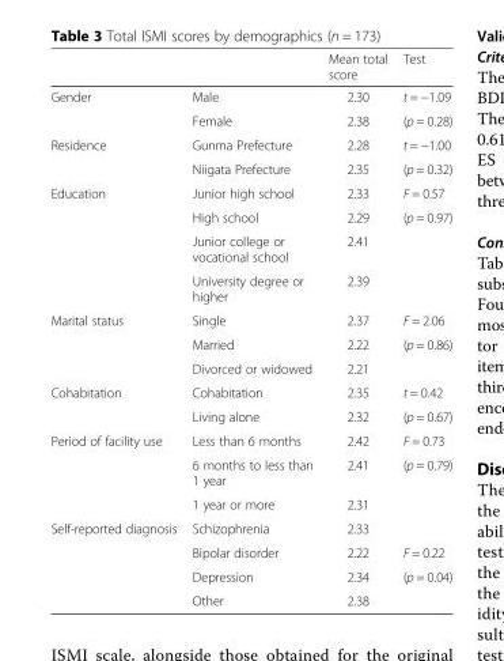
<table><thead><tr><td></td><td></td><td>Mean total score</td><td>Test</td></tr></thead><tbody><tr><td rowspan="2">Gender</td><td>Male</td><td>2.30</td><td>t = −1.09</td></tr><tr><td>Female</td><td>2.38</td><td>(p = 0.28)</td></tr><tr><td rowspan="2">Residence</td><td>Gunma Prefecture</td><td>2.28</td><td>t = −1.00</td></tr><tr><td>Niigata Prefecture</td><td>2.35</td><td>(p = 0.32)</td></tr><tr><td rowspan="4">Education</td><td>Junior high school</td><td>2.33</td><td>F = 0.57</td></tr><tr><td>High school</td><td>2.29</td><td>(p = 0.97)</td></tr><tr><td>Junior college or vocational school</td><td>2.41</td><td></td></tr><tr><td>University degree or higher</td><td>2.39</td><td></td></tr><tr><td rowspan="3">Marital status</td><td>Single</td><td>2.37</td><td>F = 2.06</td></tr><tr><td>Married</td><td>2.22</td><td>(p = 0.86)</td></tr><tr><td>Divorced or widowed</td><td>2.21</td><td></td></tr><tr><td rowspan="2">Cohabitation</td><td>Cohabitation</td><td>2.35</td><td>t = 0.42</td></tr><tr><td>Living alone</td><td>2.32</td><td>(p = 0.67)</td></tr><tr><td rowspan="3">Period of facility use</td><td>Less than 6 months</td><td>2.42</td><td>F = 0.73</td></tr><tr><td>6 months to less than 1 year</td><td>2.41</td><td>(p = 0.79)</td></tr><tr><td>1 year or more</td><td>2.31</td><td></td></tr><tr><td rowspan="4">Self-reported diagnosis</td><td>Schizophrenia</td><td>2.33</td><td></td></tr><tr><td>Bipolar disorder</td><td>2.22</td><td>F = 0.22</td></tr><tr><td>Depression</td><td>2.34</td><td>(p = 0.04)</td></tr><tr><td>Other</td><td>2.38</td><td></td></tr></tbody></table>